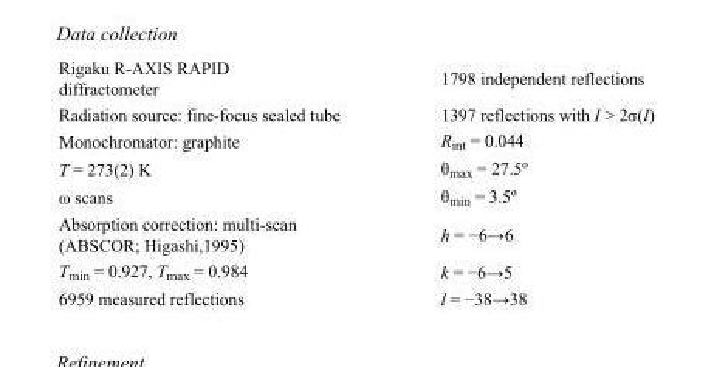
<table><tbody><tr><td>Rigaku R-AXIS RAPID diffractometer</td><td>1798 independent reflections</td></tr><tr><td>Radiation source: fine-focus sealed tube</td><td>1397 reflections with I &gt; 2σ(I)</td></tr><tr><td>Monochromator: graphite</td><td>R<sub>int</sub> = 0.044</td></tr><tr><td>T = 273(2) K</td><td>θ<sub>max</sub> = 27.5º</td></tr><tr><td>ω scans</td><td>θ<sub>min</sub> = 3.5º</td></tr><tr><td>Absorption correction: multi-scan (ABSCOR; Higashi,1995)</td><td>h = −6→6</td></tr><tr><td>T<sub>min</sub> = 0.927, T<sub>max</sub> = 0.984</td><td>k = −6→5</td></tr><tr><td>6959 measured reflections</td><td>l = −38→38</td></tr></tbody></table>